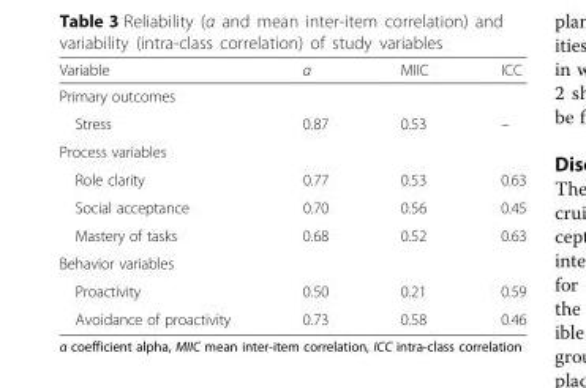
<table><thead><tr><td>Variable</td><td>α</td><td>MIIC</td><td>ICC</td></tr></thead><tbody><tr><td colspan="4">Primary outcomes</td></tr><tr><td>Stress</td><td>0.87</td><td>0.53</td><td>–</td></tr><tr><td colspan="4">Process variables</td></tr><tr><td>Role clarity</td><td>0.77</td><td>0.53</td><td>0.63</td></tr><tr><td>Social acceptance</td><td>0.70</td><td>0.56</td><td>0.45</td></tr><tr><td>Mastery of tasks</td><td>0.68</td><td>0.52</td><td>0.63</td></tr><tr><td colspan="4">Behavior variables</td></tr><tr><td>Proactivity</td><td>0.50</td><td>0.21</td><td>0.59</td></tr><tr><td>Avoidance of proactivity</td><td>0.73</td><td>0.58</td><td>0.46</td></tr></tbody></table>